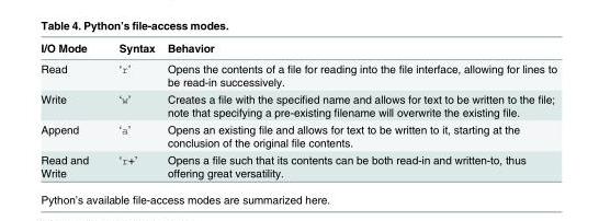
<table><thead><tr><td>I/O Mode</td><td>Syntax</td><td>Behavior</td></tr></thead><tbody><tr><td>Read</td><td>‘r’</td><td>Opens the contents of a file for reading into the file interface, allowing for lines to be read-in successively.</td></tr><tr><td>Write</td><td>‘w’</td><td>Creates a file with the specified name and allows for text to be written to the file; note that specifying a pre-existing filename will overwrite the existing file.</td></tr><tr><td>Append</td><td>‘a’</td><td>Opens an existing file and allows for text to be written to it, starting at the conclusion of the original file contents.</td></tr><tr><td>Read and Write</td><td>‘r+’</td><td>Opens a file such that its contents can be both read-in and written-to, thus offering great versatility.</td></tr></tbody></table>